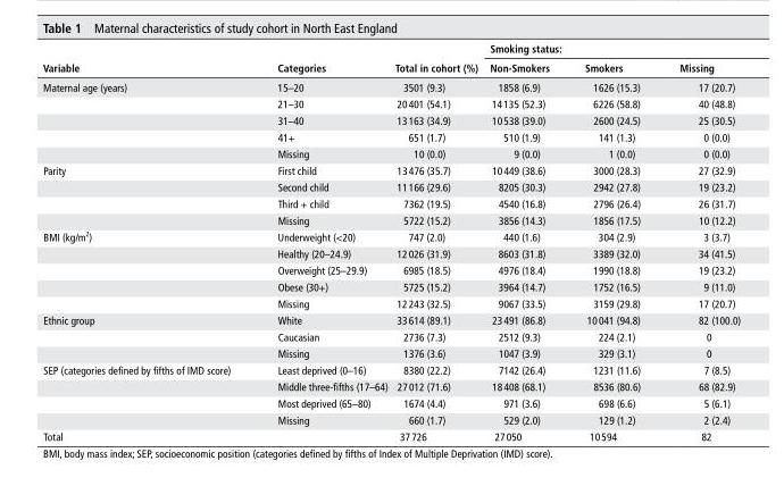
<table><thead><tr><td rowspan="2">Variable</td><td rowspan="2">categories</td><td rowspan="2">total in cohort (%)</td><td colspan="3">smoking status:</td></tr><tr><td>non-smokers</td><td>smokers</td><td>Missing</td></tr></thead><tbody><tr><td rowspan="5">Maternal age (years)</td><td>15–20</td><td>3501 (9.3)</td><td>1858 (6.9)</td><td>1626 (15.3)</td><td>17 (20.7)</td></tr><tr><td>21–30</td><td>20 401 (54.1)</td><td>14 135 (52.3)</td><td>6226 (58.8)</td><td>40 (48.8)</td></tr><tr><td>31–40</td><td>13 163 (34.9)</td><td>10 538 (39.0)</td><td>2600 (24.5)</td><td>25 (30.5)</td></tr><tr><td>41+</td><td>651 (1.7)</td><td>510 (1.9)</td><td>141 (1.3)</td><td>0 (0.0)</td></tr><tr><td>Missing</td><td>10 (0.0)</td><td>9 (0.0)</td><td>1 (0.0)</td><td>0 (0.0)</td></tr><tr><td rowspan="4">Parity</td><td>First child</td><td>13 476 (35.7)</td><td>10 449 (38.6)</td><td>3000 (28.3)</td><td>27 (32.9)</td></tr><tr><td>Second child</td><td>11 166 (29.6)</td><td>8205 (30.3)</td><td>2942 (27.8)</td><td>19 (23.2)</td></tr><tr><td>Third + child</td><td>7362 (19.5)</td><td>4540 (16.8)</td><td>2796 (26.4)</td><td>26 (31.7)</td></tr><tr><td>Missing</td><td>5722 (15.2)</td><td>3856 (14.3)</td><td>1856 (17.5)</td><td>10 (12.2)</td></tr><tr><td rowspan="5">BMI (kg/m<sup>2</sup>)</td><td>Underweight (&lt;20)</td><td>747 (2.0)</td><td>440 (1.6)</td><td>304 (2.9)</td><td>3 (3.7)</td></tr><tr><td>Healthy (20–24.9)</td><td>12 026 (31.9)</td><td>8603 (31.8)</td><td>3389 (32.0)</td><td>34 (41.5)</td></tr><tr><td>Overweight (25–29.9)</td><td>6985 (18.5)</td><td>4976 (18.4)</td><td>1990 (18.8)</td><td>19 (23.2)</td></tr><tr><td>Obese (30+)</td><td>5725 (15.2)</td><td>3964 (14.7)</td><td>1752 (16.5)</td><td>9 (11.0)</td></tr><tr><td>Missing</td><td>12 243 (32.5)</td><td>9067 (33.5)</td><td>3159 (29.8)</td><td>17 (20.7)</td></tr><tr><td rowspan="3">Ethnic group</td><td>White</td><td>33 614 (89.1)</td><td>23 491 (86.8)</td><td>10 041 (94.8)</td><td>82 (100.0)</td></tr><tr><td>Caucasian</td><td>2736 (7.3)</td><td>2512 (9.3)</td><td>224 (2.1)</td><td>0</td></tr><tr><td>Missing</td><td>1376 (3.6)</td><td>1047 (3.9)</td><td>329 (3.1)</td><td>0</td></tr><tr><td rowspan="4">SEP (categories defined by fifths of IMD score)</td><td>Least deprived (0–16)</td><td>8380 (22.2)</td><td>7142 (26.4)</td><td>1231 (11.6)</td><td>7 (8.5)</td></tr><tr><td>Middle three-fifths (17–64)</td><td>27 012 (71.6)</td><td>18 408 (68.1)</td><td>8536 (80.6)</td><td>68 (82.9)</td></tr><tr><td>Most deprived (65–80)</td><td>1674 (4.4)</td><td>971 (3.6)</td><td>698 (6.6)</td><td>5 (6.1)</td></tr><tr><td>Missing</td><td>660 (1.7)</td><td>529 (2.0)</td><td>129 (1.2)</td><td>2 (2.4)</td></tr><tr><td>Total</td><td></td><td>37 726</td><td>27 050</td><td>10 594</td><td>82</td></tr></tbody></table>